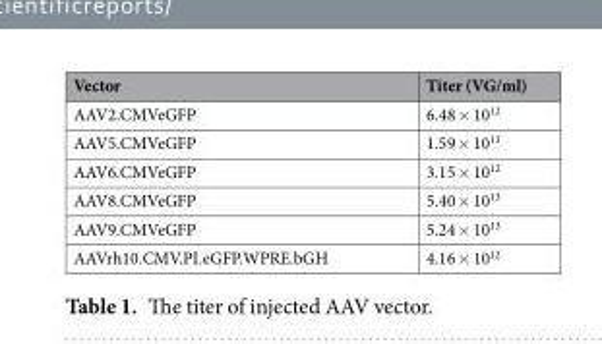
<table><thead><tr><td>Vector</td><td>Titer (VG/ml)</td></tr></thead><tbody><tr><td>AAV2.CMVeGFP</td><td>6.48 × 10<sup>12</sup></td></tr><tr><td>AAV5.CMVeGFP</td><td>1.59 × 10<sup>13</sup></td></tr><tr><td>AAV6.CMVeGFP</td><td>3.15 × 10<sup>12</sup></td></tr><tr><td>AAV8.CMVeGFP</td><td>5.40 × 10<sup>13</sup></td></tr><tr><td>AAV9.CMVeGFP</td><td>5.24 × 10<sup>13</sup></td></tr><tr><td>AAVrh10.CMV.PI.eGFP.WPRE.bGH</td><td>4.16 × 10<sup>12</sup></td></tr></tbody></table>